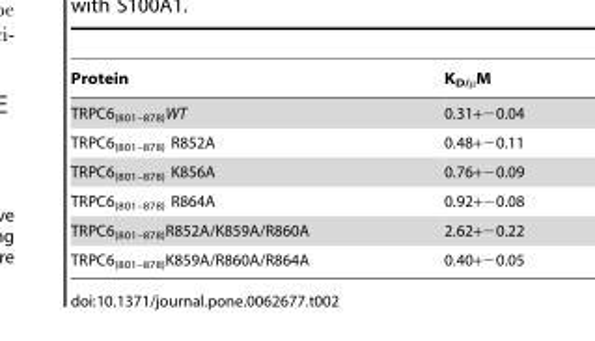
<table><thead><tr><td>Protein</td><td>K<sub>D/µ</sub>M</td></tr></thead><tbody><tr><td>TRPC6<sub>(801–878)</sub>WT</td><td>0.31+−0.04</td></tr><tr><td>TRPC6<sub>(801–878)</sub> R852A</td><td>0.48+−0.11</td></tr><tr><td>TRPC6<sub>(801–878)</sub> K856A</td><td>0.76+−0.09</td></tr><tr><td>TRPC6<sub>(801–878)</sub> R864A</td><td>0.92+−0.08</td></tr><tr><td>TRPC6<sub>(801–878)</sub>R852A/K859A/R860A</td><td>2.62+−0.22</td></tr><tr><td>TRPC6<sub>(801–878)</sub>K859A/R860A/R864A</td><td>0.40+−0.05</td></tr></tbody></table>